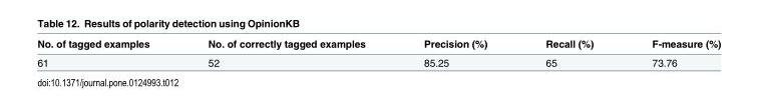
<table><thead><tr><td>No. of tagged examples</td><td>No. of correctly tagged examples</td><td>Precision (%)</td><td>Recall (%)</td><td>F-measure (%)</td></tr></thead><tbody><tr><td>61</td><td>52</td><td>85.25</td><td>65</td><td>73.76</td></tr></tbody></table>